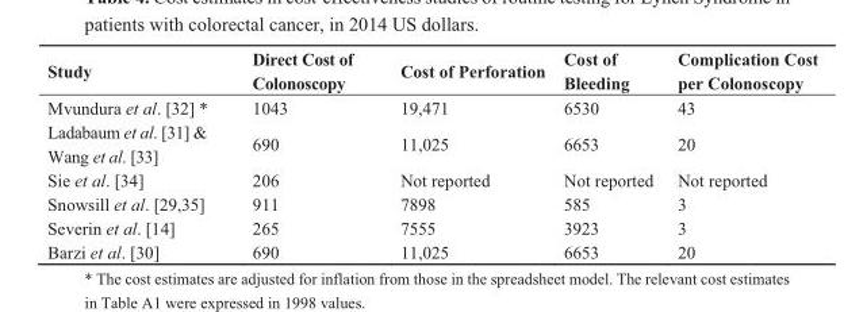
<table><thead><tr><td>Study</td><td>Direct Cost of Colonoscopy</td><td>Cost of Perforation</td><td>Cost of Bleeding</td><td>Complication Cost per Colonoscopy</td></tr></thead><tbody><tr><td>Mvundura et al. [32] *</td><td>1043</td><td>19,471</td><td>6530</td><td>43</td></tr><tr><td>Ladabaum et al. [31] &amp; Wang et al. [33]</td><td>690</td><td>11,025</td><td>6653</td><td>20</td></tr><tr><td>Sie et al. [34]</td><td>206</td><td>Not reported</td><td>Not reported</td><td>Not reported</td></tr><tr><td>Snowsill et al. [29,35]</td><td>911</td><td>7898</td><td>585</td><td>3</td></tr><tr><td>Severin et al. [14]</td><td>265</td><td>7555</td><td>3923</td><td>3</td></tr><tr><td>Barzi et al. [30]</td><td>690</td><td>11,025</td><td>6653</td><td>20</td></tr></tbody></table>